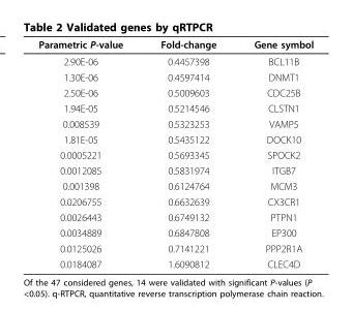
<table><thead><tr><td>Parametric P-value</td><td>Fold-change</td><td>Gene symbol</td></tr></thead><tbody><tr><td>2.90E-06</td><td>0.4457398</td><td>BCL11B</td></tr><tr><td>1.30E-06</td><td>0.4597414</td><td>DNMT1</td></tr><tr><td>2.50E-06</td><td>0.5009603</td><td>CDC25B</td></tr><tr><td>1.94E-05</td><td>0.5214546</td><td>CLSTN1</td></tr><tr><td>0.008539</td><td>0.5323253</td><td>VAMP5</td></tr><tr><td>1.81E-05</td><td>0.5435122</td><td>DOCK10</td></tr><tr><td>0.0005221</td><td>0.5693345</td><td>SPOCK2</td></tr><tr><td>0.0012085</td><td>0.5831974</td><td>ITGB7</td></tr><tr><td>0.001398</td><td>0.6124764</td><td>MCM3</td></tr><tr><td>0.0206755</td><td>0.6632639</td><td>CX3CR1</td></tr><tr><td>0.0026443</td><td>0.6749132</td><td>PTPN1</td></tr><tr><td>0.0034889</td><td>0.6847808</td><td>EP300</td></tr><tr><td>0.0125026</td><td>0.7141221</td><td>PPP2R1A</td></tr><tr><td>0.0184087</td><td>1.6090812</td><td>CLEC4D</td></tr></tbody></table>